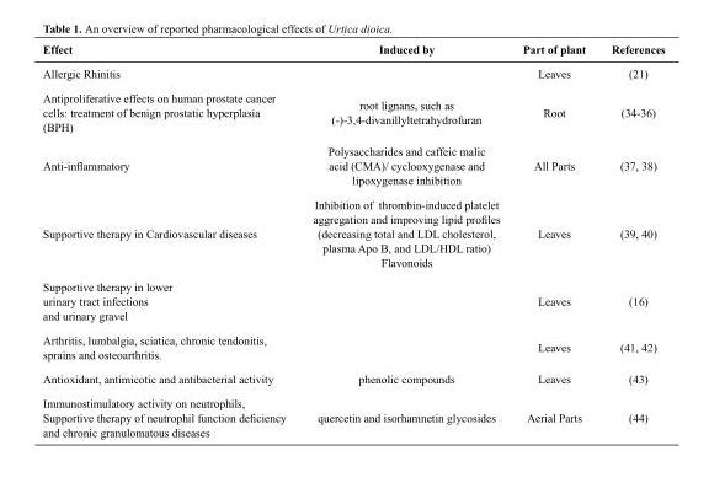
<table><thead><tr><td>Effect</td><td>Induced by</td><td>Part of plant</td><td>References</td></tr></thead><tbody><tr><td>Allergic Rhinitis</td><td></td><td>Leaves</td><td>(21)</td></tr><tr><td>Antiproliferative effects on human prostate cancer cells: treatment of benign prostatic hyperplasia (BPH)</td><td>root lignans, such as (-)-3,4-divanillyltetrahydrofuran</td><td>Root</td><td>(34-36)</td></tr><tr><td>Anti-inflammatory</td><td>Polysaccharides and caffeic malic acid (CMA)/ cyclooxygenase and lipoxygenase inhibition</td><td>All Parts</td><td>(37, 38)</td></tr><tr><td>Supportive therapy in Cardiovascular diseases</td><td>Inhibition of thrombin-induced platelet aggregation and improving lipid profiles (decreasing total and LDL cholesterol, plasma Apo B, and LDL/HDL ratio) Flavonoids</td><td>Leaves</td><td>(39, 40)</td></tr><tr><td>Supportive therapy in lower urinary tract infections and urinary gravel</td><td></td><td>Leaves</td><td>(16)</td></tr><tr><td>Arthritis, lumbalgia, sciatica, chronic tendonitis, sprains and osteoarthritis.</td><td></td><td>Leaves</td><td>(41, 42)</td></tr><tr><td>Antioxidant, antimicotic and antibacterial activity</td><td>phenolic compounds</td><td>Leaves</td><td>(43)</td></tr><tr><td>Immunostimulatory activity on neutrophils, Supportive therapy of neutrophil function deficiency and chronic granulomatous diseases</td><td>quercetin and isorhamnetin glycosides</td><td>Aerial Parts</td><td>(44)</td></tr></tbody></table>